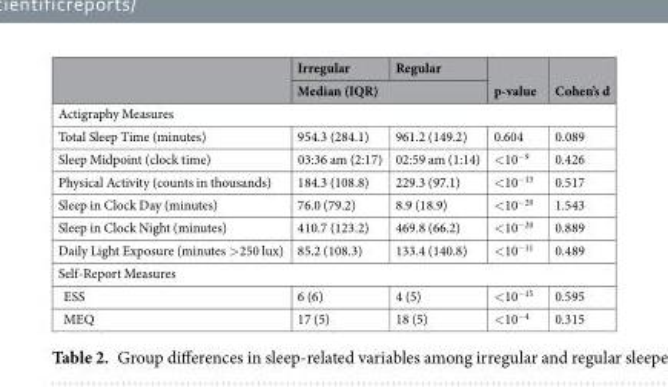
<table><thead><tr><td rowspan="2"></td><td>Irregular</td><td>Regular</td><td rowspan="2">p-value</td><td rowspan="2">Cohen’s d</td></tr><tr><td colspan="2">Median (IQR)</td></tr></thead><tbody><tr><td colspan="5">Actigraphy Measures</td></tr><tr><td>Total Sleep Time (minutes)</td><td>954.3 (284.1)</td><td>961.2 (149.2)</td><td>0.604</td><td>0.089</td></tr><tr><td>Sleep Midpoint (clock time)</td><td>03:36 am (2:17)</td><td>02:59 am (1:14)</td><td>&lt;10<sup>−9</sup></td><td>0.426</td></tr><tr><td>Physical Activity (counts in thousands)</td><td>184.3 (108.8)</td><td>229.3 (97.1)</td><td>&lt;10<sup>−13</sup></td><td>0.517</td></tr><tr><td>Sleep in Clock Day (minutes)</td><td>76.0 (79.2)</td><td>8.9 (18.9)</td><td>&lt;10−20</td><td>1.543</td></tr><tr><td>Sleep in Clock Night (minutes)</td><td>410.7 (123.2)</td><td>469.8 (66.2)</td><td>&lt;10−20</td><td>0.889</td></tr><tr><td>Daily Light Exposure (minutes &gt;250 lux)</td><td>85.2 (108.3)</td><td>133.4 (140.8)</td><td>&lt;10<sup>−11</sup></td><td>0.489</td></tr><tr><td colspan="5">Self-Report Measures</td></tr><tr><td>ESS</td><td>6 (6)</td><td>4 (5)</td><td>&lt;10<sup>−15</sup></td><td>0.595</td></tr><tr><td>MEQ</td><td>17 (5)</td><td>18 (5)</td><td>&lt;10<sup>−4</sup></td><td>0.315</td></tr></tbody></table>